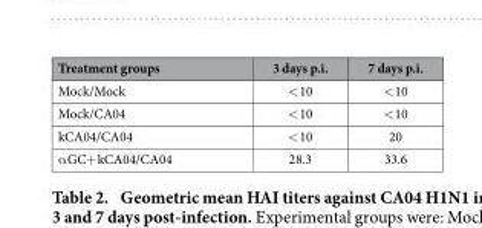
<table><thead><tr><td>Treatment groups</td><td>3 days p.i.</td><td>7 days p.i.</td></tr></thead><tbody><tr><td>Mock/Mock</td><td>&lt; 10</td><td>&lt; 10</td></tr><tr><td>Mock/CA04</td><td>&lt; 10</td><td>&lt; 10</td></tr><tr><td>kCA04/CA04</td><td>&lt; 10</td><td>20</td></tr><tr><td>α GC+ kCA04/CA04</td><td>28.3</td><td>33.6</td></tr></tbody></table>